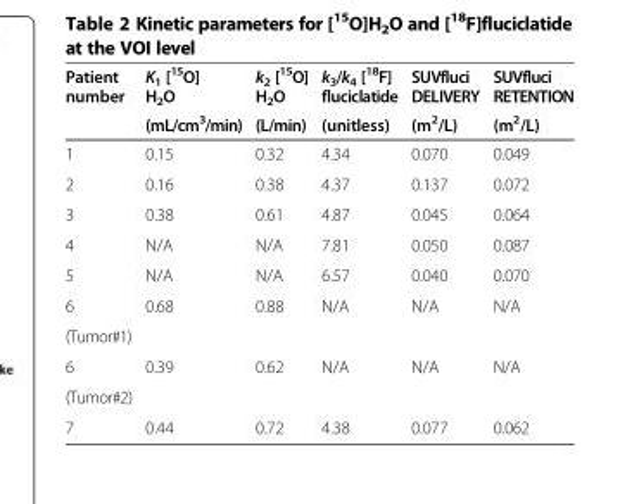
<table><thead><tr><td rowspan="2">Patient number</td><td rowspan="2">K<sub>1</sub> [<sup>15</sup>O] H<sub>2</sub>O (mL/cm<sup>3</sup>/min)</td><td rowspan="2">k<sub>2</sub> [<sup>15</sup>O] H<sub>2</sub>O (L/min)</td><td rowspan="2">k<sub>3</sub>/k<sub>4</sub> [<sup>18</sup>F] fluciclatide (unitless)</td><td rowspan="2">SUVfluci DELIVERY (m<sup>2</sup>/L)</td><td rowspan="2">SUVfluci RETENTION (m<sup>2</sup>/L)</td></tr><tr></tr></thead><tbody><tr><td>1</td><td>0.15</td><td>0.32</td><td>4.34</td><td>0.070</td><td>0.049</td></tr><tr><td>2</td><td>0.16</td><td>0.38</td><td>4.37</td><td>0.137</td><td>0.072</td></tr><tr><td>3</td><td>0.38</td><td>0.61</td><td>4.87</td><td>0.045</td><td>0.064</td></tr><tr><td>4</td><td>N/A</td><td>N/A</td><td>7.81</td><td>0.050</td><td>0.087</td></tr><tr><td>5</td><td>N/A</td><td>N/A</td><td>6.57</td><td>0.040</td><td>0.070</td></tr><tr><td>6</td><td>0.68</td><td>0.88</td><td>N/A</td><td>N/A</td><td>N/A</td></tr><tr><td colspan="6">(Tumor#1)</td></tr><tr><td>6</td><td rowspan="2">0.39</td><td rowspan="2">0.62</td><td rowspan="2">N/A</td><td rowspan="2">N/A</td><td rowspan="2">N/A</td></tr><tr><td>(Tumor#2)</td></tr><tr><td>7</td><td>0.44</td><td>0.72</td><td>4.38</td><td>0.077</td><td>0.062</td></tr></tbody></table>